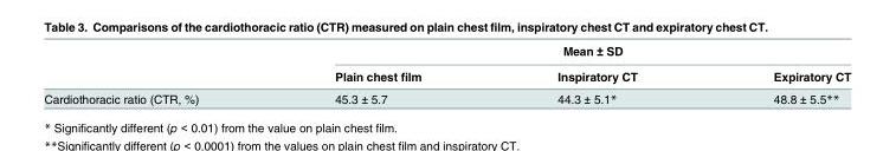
<table><thead><tr><td rowspan="2"></td><td colspan="3">Mean ± SD</td></tr><tr><td>Plain chest film</td><td>Inspiratory CT</td><td>Expiratory CT</td></tr></thead><tbody><tr><td>Cardiothoracic ratio (CTR, %)</td><td>45.3 ± 5.7</td><td>44.3 ± 5.1*</td><td>48.8 ± 5.5**</td></tr></tbody></table>